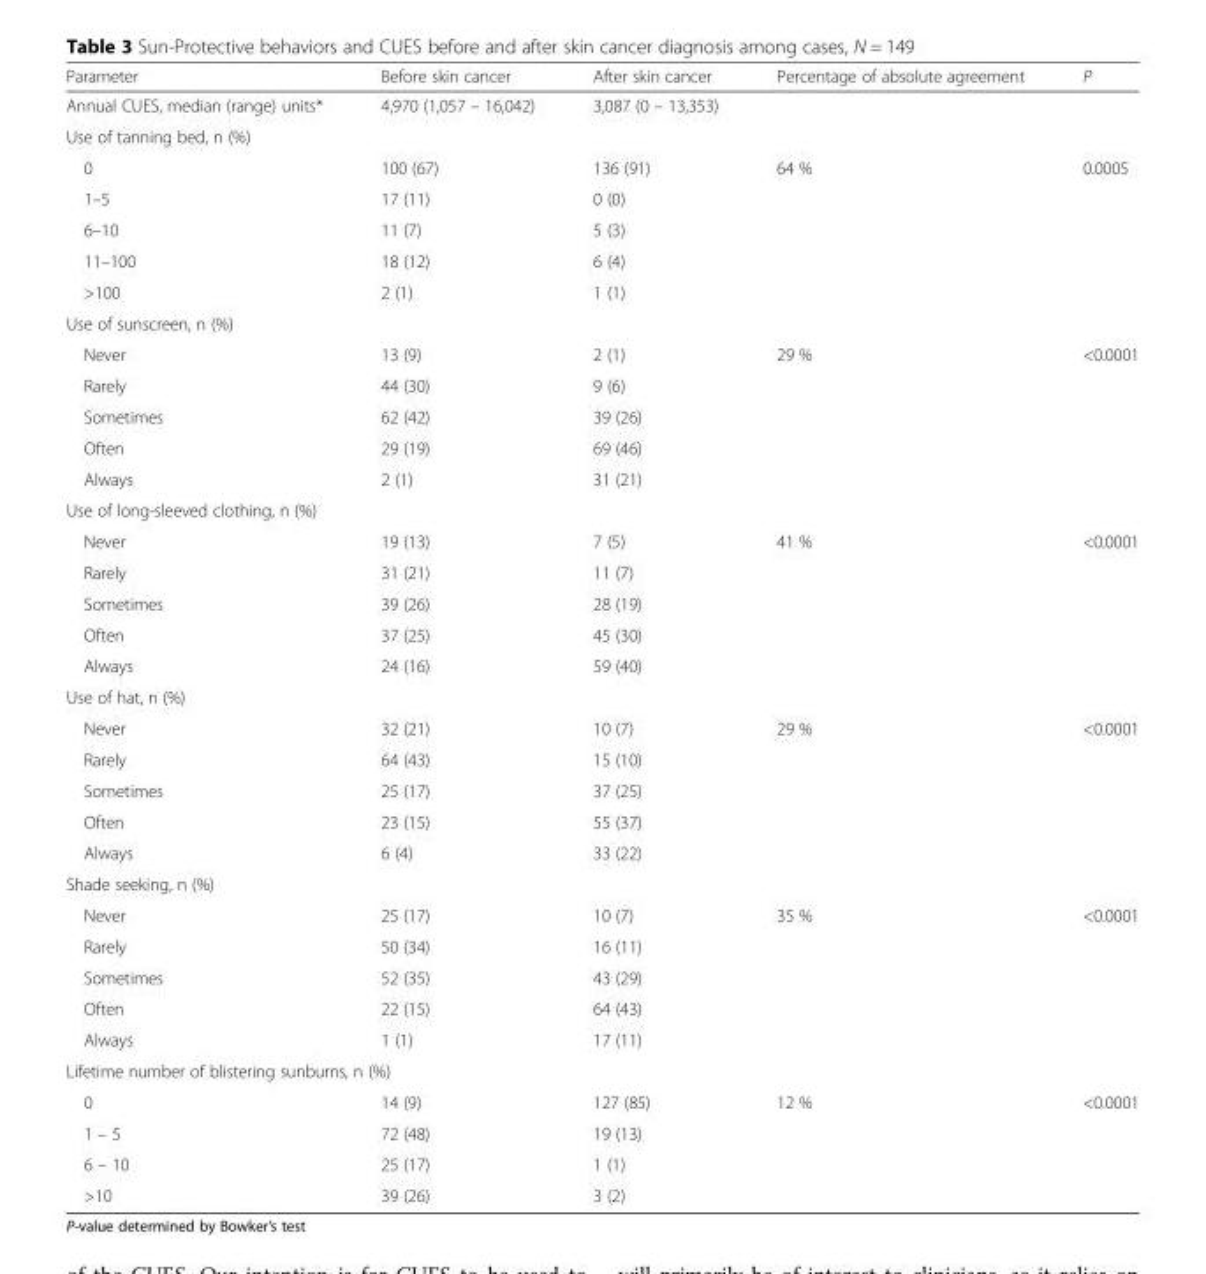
<table><thead><tr><td>Parameter</td><td>Before skin cancer</td><td>After skin cancer</td><td>Percentage of absolute agreement</td><td>P</td></tr></thead><tbody><tr><td>Annual CUES, median (range) units*</td><td>4,970 (1,057 – 16,042)</td><td>3,087 (0 – 13,353)</td><td></td><td></td></tr><tr><td colspan="5">Use of tanning bed, n (%)</td></tr><tr><td>0</td><td>100 (67)</td><td>136 (91)</td><td>64 %</td><td>0.0005</td></tr><tr><td>1–5</td><td>17 (11)</td><td>0 (0)</td><td></td><td></td></tr><tr><td>6–10</td><td>11 (7)</td><td>5 (3)</td><td></td><td></td></tr><tr><td>11–100</td><td>18 (12)</td><td>6 (4)</td><td></td><td></td></tr><tr><td>&gt;100</td><td>2 (1)</td><td>1 (1)</td><td></td><td></td></tr><tr><td colspan="5">Use of sunscreen, n (%)</td></tr><tr><td>Never</td><td>13 (9)</td><td>2 (1)</td><td>29 %</td><td>&lt;0.0001</td></tr><tr><td>Rarely</td><td>44 (30)</td><td>9 (6)</td><td></td><td></td></tr><tr><td>Sometimes</td><td>62 (42)</td><td>39 (26)</td><td></td><td></td></tr><tr><td>Often</td><td>29 (19)</td><td>69 (46)</td><td></td><td></td></tr><tr><td>Always</td><td>2 (1)</td><td>31 (21)</td><td></td><td></td></tr><tr><td colspan="5">Use of long-sleeved clothing, n (%)</td></tr><tr><td>Never</td><td>19 (13)</td><td>7 (5)</td><td>41 %</td><td>&lt;0.0001</td></tr><tr><td>Rarely</td><td>31 (21)</td><td>11 (7)</td><td></td><td></td></tr><tr><td>Sometimes</td><td>39 (26)</td><td>28 (19)</td><td></td><td></td></tr><tr><td>Often</td><td>37 (25)</td><td>45 (30)</td><td></td><td></td></tr><tr><td>Always</td><td>24 (16)</td><td>59 (40)</td><td></td><td></td></tr><tr><td colspan="5">Use of hat, n (%)</td></tr><tr><td>Never</td><td>32 (21)</td><td>10 (7)</td><td>29 %</td><td>&lt;0.0001</td></tr><tr><td>Rarely</td><td>64 (43)</td><td>15 (10)</td><td></td><td></td></tr><tr><td>Sometimes</td><td>25 (17)</td><td>37 (25)</td><td></td><td></td></tr><tr><td>Often</td><td>23 (15)</td><td>55 (37)</td><td></td><td></td></tr><tr><td>Always</td><td>6 (4)</td><td>33 (22)</td><td></td><td></td></tr><tr><td colspan="5">Shade seeking, n (%)</td></tr><tr><td>Never</td><td>25 (17)</td><td>10 (7)</td><td>35 %</td><td>&lt;0.0001</td></tr><tr><td>Rarely</td><td>50 (34)</td><td>16 (11)</td><td></td><td></td></tr><tr><td>Sometimes</td><td>52 (35)</td><td>43 (29)</td><td></td><td></td></tr><tr><td>Often</td><td>22 (15)</td><td>64 (43)</td><td></td><td></td></tr><tr><td>Always</td><td>1 (1)</td><td>17 (11)</td><td></td><td></td></tr><tr><td colspan="5">Lifetime number of blistering sunburns, n (%)</td></tr><tr><td>0</td><td>14 (9)</td><td>127 (85)</td><td>12 %</td><td>&lt;0.0001</td></tr><tr><td>1 – 5</td><td>72 (48)</td><td>19 (13)</td><td></td><td></td></tr><tr><td>6 – 10</td><td>25 (17)</td><td>1 (1)</td><td></td><td></td></tr><tr><td>&gt;10</td><td>39 (26)</td><td>3 (2)</td><td></td><td></td></tr></tbody></table>